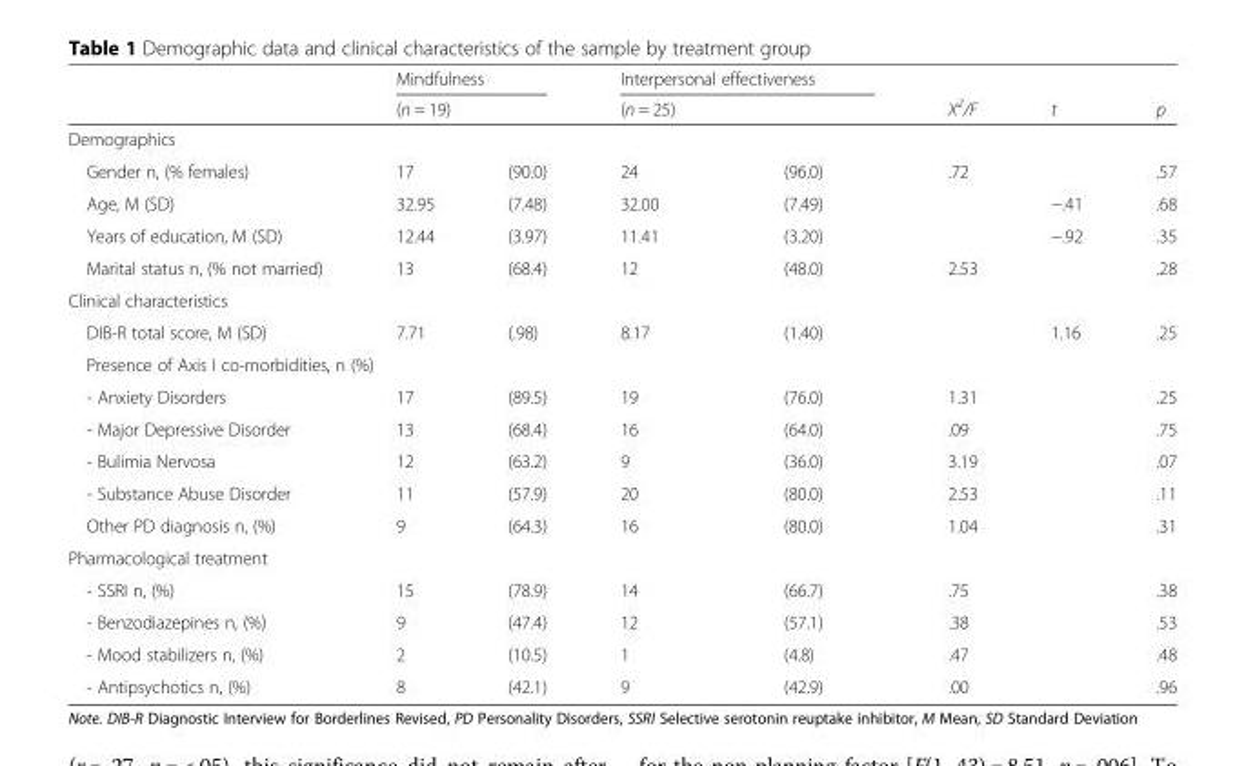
<table><thead><tr><td rowspan="2"></td><td rowspan="2" colspan="2">Mindfulness (n = 19)</td><td rowspan="2" colspan="2">Interpersonal effectiveness (n = 25)</td><td rowspan="2">X<sup>2</sup>/F</td><td rowspan="2">t</td><td rowspan="2">p</td></tr><tr></tr><tr><td colspan="8">Demographics</td></tr><tr><td>Gender n, (% females)</td><td>17</td><td>(90.0)</td><td>24</td><td>(96.0)</td><td>.72</td><td></td><td>.57</td></tr></thead><tbody><tr><td>Age, M (SD)</td><td>32.95</td><td>(7.48)</td><td>32.00</td><td>(7.49)</td><td></td><td>−.41</td><td>.68</td></tr><tr><td>Years of education, M (SD)</td><td>12.44</td><td>(3.97)</td><td>11.41</td><td>(3.20)</td><td></td><td>−.92</td><td>.35</td></tr><tr><td>Marital status n, (% not married)</td><td>13</td><td>(68.4)</td><td>12</td><td>(48.0)</td><td>2.53</td><td></td><td>.28</td></tr><tr><td colspan="8">Clinical characteristics</td></tr><tr><td>DIB-R total score, M (SD)</td><td>7.71</td><td>(.98)</td><td>8.17</td><td>(1.40)</td><td></td><td>1.16</td><td>.25</td></tr><tr><td colspan="8">Presence of Axis I co-morbidities, n (%)</td></tr><tr><td>- Anxiety Disorders</td><td>17</td><td>(89.5)</td><td>19</td><td>(76.0)</td><td>1.31</td><td></td><td>.25</td></tr><tr><td>- Major Depressive Disorder</td><td>13</td><td>(68.4)</td><td>16</td><td>(64.0)</td><td>.09</td><td></td><td>.75</td></tr><tr><td>- Bulimia Nervosa</td><td>12</td><td>(63.2)</td><td>9</td><td>(36.0)</td><td>3.19</td><td></td><td>.07</td></tr><tr><td>- Substance Abuse Disorder</td><td>11</td><td>(57.9)</td><td>20</td><td>(80.0)</td><td>2.53</td><td></td><td>.11</td></tr><tr><td>Other PD diagnosis n, (%)</td><td>9</td><td>(64.3)</td><td>16</td><td>(80.0)</td><td>1.04</td><td></td><td>.31</td></tr><tr><td colspan="8">Pharmacological treatment</td></tr><tr><td>- SSRI n, (%)</td><td>15</td><td>(78.9)</td><td>14</td><td>(66.7)</td><td>.75</td><td></td><td>.38</td></tr><tr><td>- Benzodiazepines n, (%)</td><td>9</td><td>(47.4)</td><td>12</td><td>(57.1)</td><td>.38</td><td></td><td>.53</td></tr><tr><td>- Mood stabilizers n, (%)</td><td>2</td><td>(10.5)</td><td>1</td><td>(4.8)</td><td>.47</td><td></td><td>.48</td></tr><tr><td>- Antipsychotics n, (%)</td><td>8</td><td>(42.1)</td><td>9</td><td>(42.9)</td><td>.00</td><td></td><td>.96</td></tr></tbody></table>